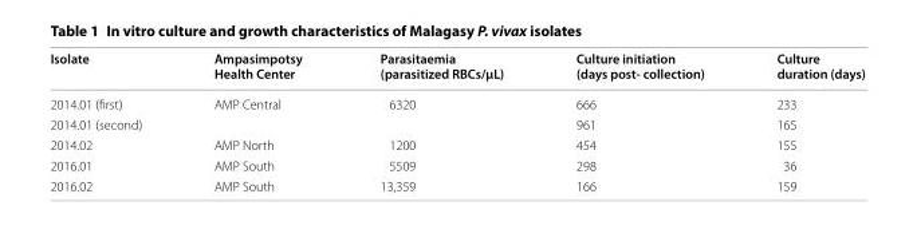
<table><thead><tr><td>Isolate</td><td>Ampasimpotsy Health Center</td><td>Parasitaemia (parasitized RBCs/μL)</td><td>Culture initiation (days post‑ collection)</td><td>Culture duration (days)</td></tr></thead><tbody><tr><td>2014.01 (first)</td><td>AMP Central</td><td>6320</td><td>666</td><td>233</td></tr><tr><td>2014.01 (second)</td><td></td><td></td><td>961</td><td>165</td></tr><tr><td>2014.02</td><td>AMP North</td><td>1200</td><td>454</td><td>155</td></tr><tr><td>2016.01</td><td>AMP South</td><td>5509</td><td>298</td><td>36</td></tr><tr><td>2016.02</td><td>AMP South</td><td>13,359</td><td>166</td><td>159</td></tr></tbody></table>